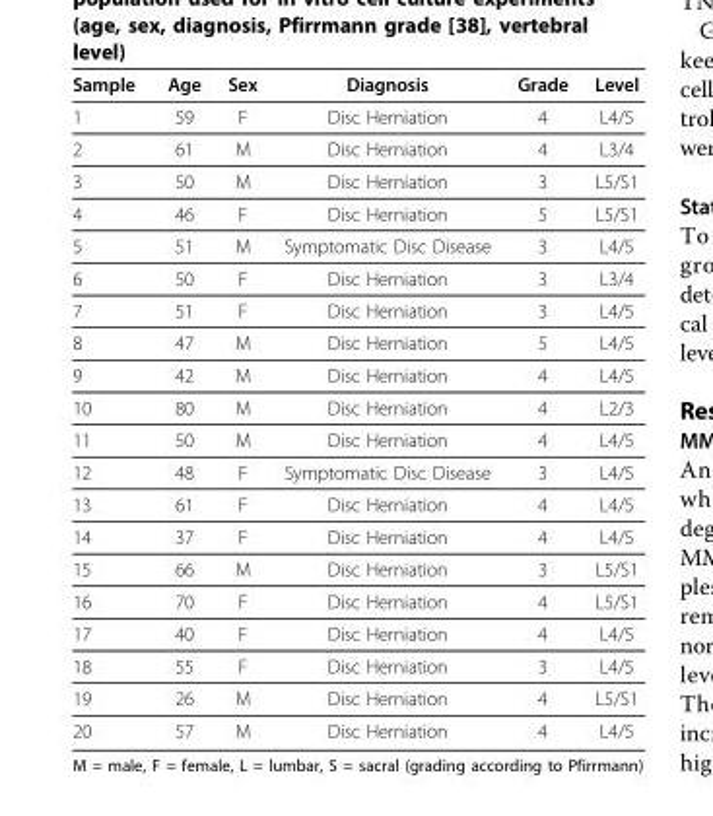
<table><thead><tr><td>Sample</td><td>Age</td><td>Sex</td><td>Diagnosis</td><td>Grade</td><td>Level</td></tr></thead><tbody><tr><td>1</td><td>59</td><td>F</td><td>Disc Herniation</td><td>4</td><td>L4/5</td></tr><tr><td>2</td><td>61</td><td>M</td><td>Disc Herniation</td><td>4</td><td>L3/4</td></tr><tr><td>3</td><td>50</td><td>M</td><td>Disc Herniation</td><td>3</td><td>L5/S1</td></tr><tr><td>4</td><td>46</td><td>F</td><td>Disc Herniation</td><td>5</td><td>L5/S1</td></tr><tr><td>5</td><td>51</td><td>M</td><td>Symptomatic Disc Disease</td><td>3</td><td>L4/5</td></tr><tr><td>6</td><td>50</td><td>F</td><td>Disc Herniation</td><td>3</td><td>L3/4</td></tr><tr><td>7</td><td>51</td><td>F</td><td>Disc Herniation</td><td>3</td><td>L4/5</td></tr><tr><td>8</td><td>47</td><td>M</td><td>Disc Herniation</td><td>5</td><td>L4/5</td></tr><tr><td>9</td><td>42</td><td>M</td><td>Disc Herniation</td><td>4</td><td>L4/5</td></tr><tr><td>10</td><td>80</td><td>M</td><td>Disc Herniation</td><td>4</td><td>L2/3</td></tr><tr><td>11</td><td>50</td><td>M</td><td>Disc Herniation</td><td>4</td><td>L4/5</td></tr><tr><td>12</td><td>48</td><td>F</td><td>Symptomatic Disc Disease</td><td>3</td><td>L4/5</td></tr><tr><td>13</td><td>61</td><td>F</td><td>Disc Herniation</td><td>4</td><td>L4/5</td></tr><tr><td>14</td><td>37</td><td>F</td><td>Disc Herniation</td><td>4</td><td>L4/5</td></tr><tr><td>15</td><td>66</td><td>M</td><td>Disc Herniation</td><td>3</td><td>L5/S1</td></tr><tr><td>16</td><td>70</td><td>F</td><td>Disc Herniation</td><td>4</td><td>L5/S1</td></tr><tr><td>17</td><td>40</td><td>F</td><td>Disc Herniation</td><td>4</td><td>L4/5</td></tr><tr><td>18</td><td>55</td><td>F</td><td>Disc Herniation</td><td>3</td><td>L4/5</td></tr><tr><td>19</td><td>26</td><td>M</td><td>Disc Herniation</td><td>4</td><td>L5/S1</td></tr><tr><td>20</td><td>57</td><td>M</td><td>Disc Herniation</td><td>4</td><td>L4/5</td></tr></tbody></table>